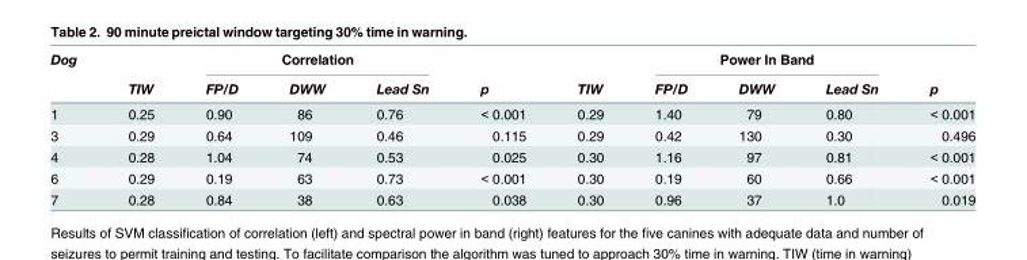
<table><thead><tr><td rowspan="2">Dog</td><td rowspan="2">TIW</td><td colspan="3">Correlation</td><td rowspan="2">p</td><td rowspan="2">TIW</td><td colspan="3">Power In Band</td><td rowspan="2">p</td></tr><tr><td>FP/D</td><td>DWW</td><td>Lead Sn</td><td>FP/D</td><td>DWW</td><td>Lead Sn</td></tr></thead><tbody><tr><td>1</td><td>0.25</td><td>0.90</td><td>86</td><td>0.76</td><td>&lt; 0.001</td><td>0.29</td><td>1.40</td><td>79</td><td>0.80</td><td>&lt; 0.001</td></tr><tr><td>3</td><td>0.29</td><td>0.64</td><td>109</td><td>0.46</td><td>0.115</td><td>0.29</td><td>0.42</td><td>130</td><td>0.30</td><td>0.496</td></tr><tr><td>4</td><td>0.28</td><td>1.04</td><td>74</td><td>0.53</td><td>0.025</td><td>0.30</td><td>1.16</td><td>97</td><td>0.81</td><td>&lt; 0.001</td></tr><tr><td>6</td><td>0.29</td><td>0.19</td><td>63</td><td>0.73</td><td>&lt; 0.001</td><td>0.30</td><td>0.19</td><td>60</td><td>0.66</td><td>&lt; 0.001</td></tr><tr><td>7</td><td>0.28</td><td>0.84</td><td>38</td><td>0.63</td><td>0.038</td><td>0.30</td><td>0.96</td><td>37</td><td>1.0</td><td>0.019</td></tr></tbody></table>